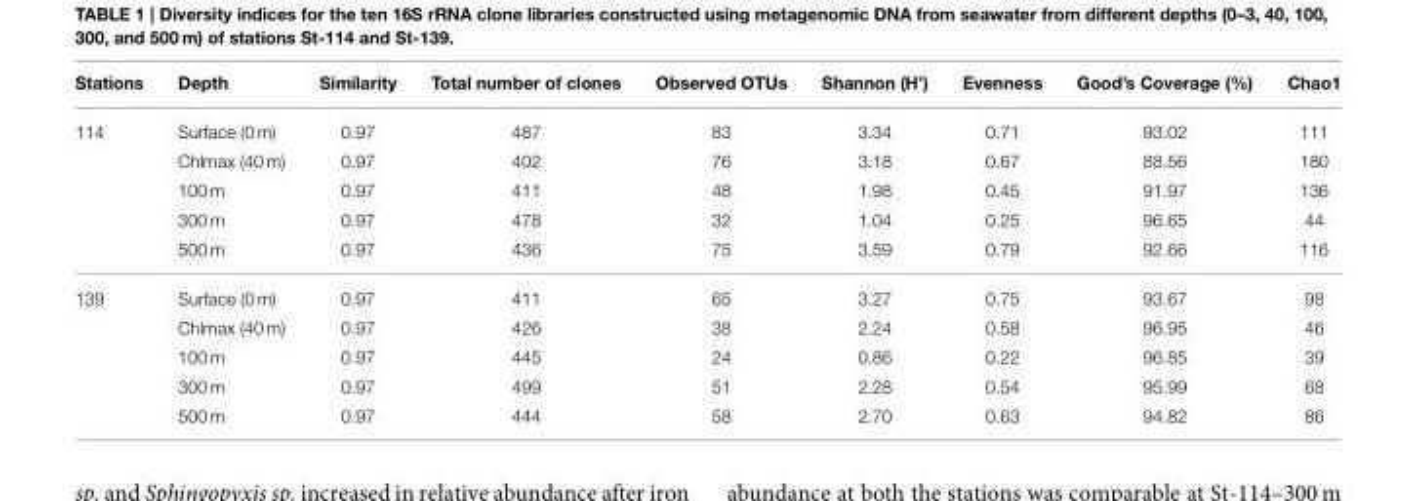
<table><thead><tr><td>Stations</td><td>Depth</td><td>Similarity</td><td>Total number of clones</td><td>Observed OTUs</td><td>Shannon (H’)</td><td>Evenness</td><td>Good’s Coverage (%)</td><td>Chao1</td></tr></thead><tbody><tr><td rowspan="5">114</td><td>Surface (0 m)</td><td>0.97</td><td>487</td><td>83</td><td>3.34</td><td>0.71</td><td>93.02</td><td>111</td></tr><tr><td>Chlmax (40 m)</td><td>0.97</td><td>402</td><td>76</td><td>3.18</td><td>0.67</td><td>88.56</td><td>180</td></tr><tr><td>100 m</td><td>0.97</td><td>411</td><td>48</td><td>1.98</td><td>0.45</td><td>91.97</td><td>136</td></tr><tr><td>300 m</td><td>0.97</td><td>478</td><td>32</td><td>1.04</td><td>0.25</td><td>96.65</td><td>44</td></tr><tr><td>500 m</td><td>0.97</td><td>436</td><td>75</td><td>3.59</td><td>0.79</td><td>92.66</td><td>116</td></tr><tr><td rowspan="5">139</td><td>Surface (0 m)</td><td>0.97</td><td>411</td><td>65</td><td>3.27</td><td>0.75</td><td>93.67</td><td>98</td></tr><tr><td>Chlmax (40 m)</td><td>0.97</td><td>426</td><td>38</td><td>2.24</td><td>0.58</td><td>96.95</td><td>46</td></tr><tr><td>100 m</td><td>0.97</td><td>445</td><td>24</td><td>0.86</td><td>0.22</td><td>96.85</td><td>39</td></tr><tr><td>300 m</td><td>0.97</td><td>499</td><td>51</td><td>2.28</td><td>0.54</td><td>95.99</td><td>68</td></tr><tr><td>500 m</td><td>0.97</td><td>444</td><td>58</td><td>2.70</td><td>0.63</td><td>94.82</td><td>86</td></tr></tbody></table>